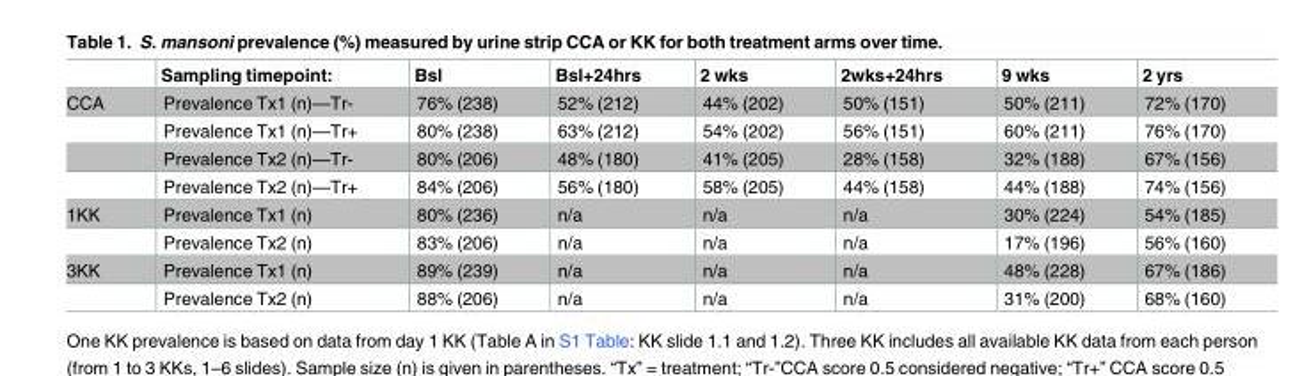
<table><thead><tr><td></td><td>Sampling timepoint:</td><td>Bsl</td><td>Bsl+24hrs</td><td>2 wks</td><td>2wks+24hrs</td><td>9 wks</td><td>2 yrs</td></tr></thead><tbody><tr><td rowspan="4">CCA</td><td>Prevalence Tx1 (n)—Tr-</td><td>76% (238)</td><td>52% (212)</td><td>44% (202)</td><td>50% (151)</td><td>50% (211)</td><td>72% (170)</td></tr><tr><td>Prevalence Tx1 (n)—Tr+</td><td>80% (238)</td><td>63% (212)</td><td>54% (202)</td><td>56% (151)</td><td>60% (211)</td><td>76% (170)</td></tr><tr><td>Prevalence Tx2 (n)—Tr-</td><td>80% (206)</td><td>48% (180)</td><td>41% (205)</td><td>28% (158)</td><td>32% (188)</td><td>67% (156)</td></tr><tr><td>Prevalence Tx2 (n)—Tr+</td><td>84% (206)</td><td>56% (180)</td><td>58% (205)</td><td>44% (158)</td><td>44% (188)</td><td>74% (156)</td></tr><tr><td rowspan="2">1KK</td><td>Prevalence Tx1 (n)</td><td>80% (236)</td><td>n/a</td><td>n/a</td><td>n/a</td><td>30% (224)</td><td>54% (185)</td></tr><tr><td>Prevalence Tx2 (n)</td><td>83% (206)</td><td>n/a</td><td>n/a</td><td>n/a</td><td>17% (196)</td><td>56% (160)</td></tr><tr><td rowspan="2">3KK</td><td>Prevalence Tx1 (n)</td><td>89% (239)</td><td>n/a</td><td>n/a</td><td>n/a</td><td>48% (228)</td><td>67% (186)</td></tr><tr><td>Prevalence Tx2 (n)</td><td>88% (206)</td><td>n/a</td><td>n/a</td><td>n/a</td><td>31% (200)</td><td>68% (160)</td></tr></tbody></table>